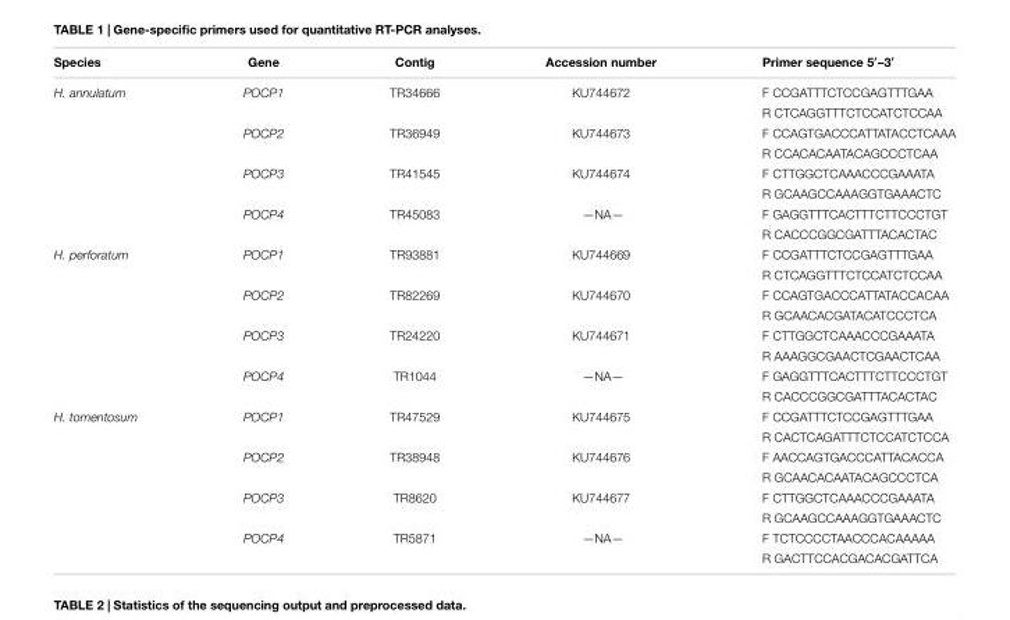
<table><thead><tr><td>Species</td><td>Gene</td><td>Contig</td><td>Accession number</td><td>Primer sequence 5′–3′</td></tr></thead><tbody><tr><td rowspan="8">H. annulatum</td><td>POCP1</td><td>TR34666</td><td>KU744672</td><td>F CCGATTTCTCCGAGTTTGAA</td></tr><tr><td></td><td></td><td></td><td>R CTCAGGTTTCTCCATCTCCAA</td></tr><tr><td>POCP2</td><td>TR36949</td><td>KU744673</td><td>F CCAGTGACCCATTATACCTCAAA</td></tr><tr><td></td><td></td><td></td><td>R CCACACAATACAGCCCTCAA</td></tr><tr><td>POCP3</td><td>TR41545</td><td>KU744674</td><td>F CTTGGCTCAAACCCGAAATA</td></tr><tr><td></td><td></td><td></td><td>R GCAAGCCAAAGGTGAAACTC</td></tr><tr><td>POCP4</td><td>TR45083</td><td>—NA—</td><td>F GAGGTTTCACTTTCTTCCCTGT</td></tr><tr><td></td><td></td><td></td><td>R CACCCGGCGATTTACACTAC</td></tr><tr><td rowspan="8">H. perforatum</td><td>POCP1</td><td>TR93881</td><td>KU744669</td><td>F CCGATTTCTCCGAGTTTGAA</td></tr><tr><td></td><td></td><td></td><td>R CTCAGGTTTCTCCATCTCCAA</td></tr><tr><td>POCP2</td><td>TR82269</td><td>KU744670</td><td>F CCAGTGACCCATTATACCACAA</td></tr><tr><td></td><td></td><td></td><td>R GCAACACGATACATCCCTCA</td></tr><tr><td>POCP3</td><td>TR24220</td><td>KU744671</td><td>F CTTGGCTCAAACCCGAAATA</td></tr><tr><td></td><td></td><td></td><td>R AAAGGCGAACTCGAACTCAA</td></tr><tr><td>POCP4</td><td>TR1044</td><td>—NA—</td><td>F GAGGTTTCACTTTCTTCCCTGT</td></tr><tr><td></td><td></td><td></td><td>R CACCCGGCGATTTACACTAC</td></tr><tr><td rowspan="8">H. tomentosum</td><td>POCP1</td><td>TR47529</td><td>KU744675</td><td>F CCGATTTCTCCGAGTTTGAA</td></tr><tr><td></td><td></td><td></td><td>R CACTCAGATTTCTCCATCTCCA</td></tr><tr><td>POCP2</td><td>TR38948</td><td>KU744676</td><td>F AACCAGTGACCCATTACACCA</td></tr><tr><td></td><td></td><td></td><td>R GCAACACAATACAGCCCTCA</td></tr><tr><td>POCP3</td><td>TR8620</td><td>KU744677</td><td>F CTTGGCTCAAACCCGAAATA</td></tr><tr><td></td><td></td><td></td><td>R GCAAGCCAAAGGTGAAACTC</td></tr><tr><td>POCP4</td><td>TR5871</td><td>—NA—</td><td>F TCTCCCCTAACCCACAAAAA</td></tr><tr><td></td><td></td><td></td><td>R GACTTCCACGACACGATTCA</td></tr></tbody></table>